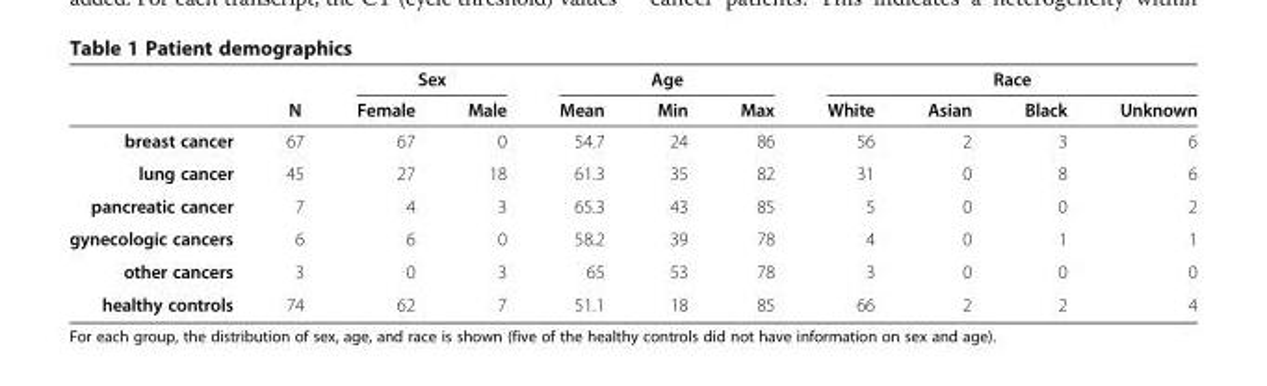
<table><thead><tr><td rowspan="2"></td><td rowspan="2">N</td><td colspan="2">Sex</td><td colspan="3">Age</td><td colspan="4">Race</td></tr><tr><td>Female</td><td>Male</td><td>Mean</td><td>Min</td><td>Max</td><td>White</td><td>Asian</td><td>Black</td><td>Unknown</td></tr></thead><tbody><tr><td>breast cancer</td><td>67</td><td>67</td><td>0</td><td>54.7</td><td>24</td><td>86</td><td>56</td><td>2</td><td>3</td><td>6</td></tr><tr><td>lung cancer</td><td>45</td><td>27</td><td>18</td><td>61.3</td><td>35</td><td>82</td><td>31</td><td>0</td><td>8</td><td>6</td></tr><tr><td>pancreatic cancer</td><td>7</td><td>4</td><td>3</td><td>65.3</td><td>43</td><td>85</td><td>5</td><td>0</td><td>0</td><td>2</td></tr><tr><td>gynecologic cancers</td><td>6</td><td>6</td><td>0</td><td>58.2</td><td>39</td><td>78</td><td>4</td><td>0</td><td>1</td><td>1</td></tr><tr><td>other cancers</td><td>3</td><td>0</td><td>3</td><td>65</td><td>53</td><td>78</td><td>3</td><td>0</td><td>0</td><td>0</td></tr><tr><td>healthy controls</td><td>74</td><td>62</td><td>7</td><td>51.1</td><td>18</td><td>85</td><td>66</td><td>2</td><td>2</td><td>4</td></tr></tbody></table>